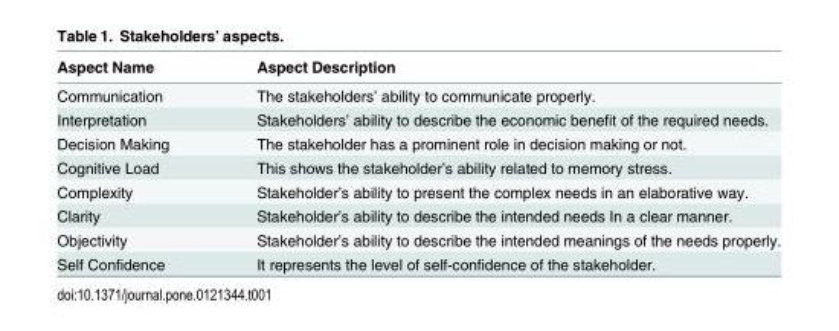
<table><thead><tr><td>Aspect Name</td><td>Aspect Description</td></tr></thead><tbody><tr><td>Communication</td><td>The stakeholders’ ability to communicate properly.</td></tr><tr><td>Interpretation</td><td>Stakeholders’ ability to describe the economic benefit of the required needs.</td></tr><tr><td>Decision Making</td><td>The stakeholder has a prominent role in decision making or not.</td></tr><tr><td>Cognitive Load</td><td>This shows the stakeholder’s ability related to memory stress.</td></tr><tr><td>Complexity</td><td>Stakeholder’s ability to present the complex needs in an elaborative way.</td></tr><tr><td>Clarity</td><td>Stakeholder’s ability to describe the intended needs In a clear manner.</td></tr><tr><td>Objectivity</td><td>Stakeholder’s ability to describe the intended meanings of the needs properly.</td></tr><tr><td>Self Confidence</td><td>It represents the level of self-confidence of the stakeholder.</td></tr></tbody></table>